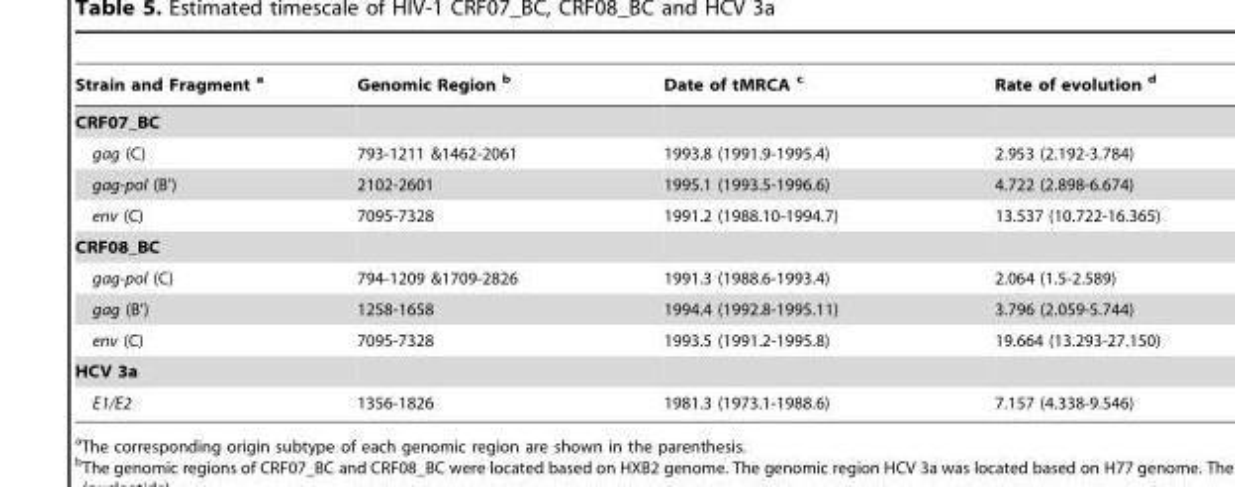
<table><thead><tr><td>Strain and Fragment a</td><td>Genomic Region b</td><td>Date of tMRCA c</td><td>Rate of evolution d</td></tr></thead><tbody><tr><td colspan="4">CRF07_BC</td></tr><tr><td>gag (C)</td><td>793-1211 &amp;1462-2061</td><td>1993.8 (1991.9-1995.4)</td><td>2.953 (2.192-3.784)</td></tr><tr><td>gag-pol (B’)</td><td>2102-2601</td><td>1995.1 (1993.5-1996.6)</td><td>4.722 (2.898-6.674)</td></tr><tr><td>env (C)</td><td>7095-7328</td><td>1991.2 (1988.10-1994.7)</td><td>13.537 (10.722-16.365)</td></tr><tr><td colspan="4">CRF08_BC</td></tr><tr><td>gag-pol (C)</td><td>794-1209 &amp;1709-2826</td><td>1991.3 (1988.6-1993.4)</td><td>2.064 (1.5-2.589)</td></tr><tr><td>gag (B’)</td><td>1258-1658</td><td>1994.4 (1992.8-1995.11)</td><td>3.796 (2.059-5.744)</td></tr><tr><td>env (C)</td><td>7095-7328</td><td>1993.5 (1991.2-1995.8)</td><td>19.664 (13.293-27.150)</td></tr><tr><td colspan="4">HCV 3a</td></tr><tr><td>E1/E2</td><td>1356-1826</td><td>1981.3 (1973.1-1988.6)</td><td>7.157 (4.338-9.546)</td></tr></tbody></table>